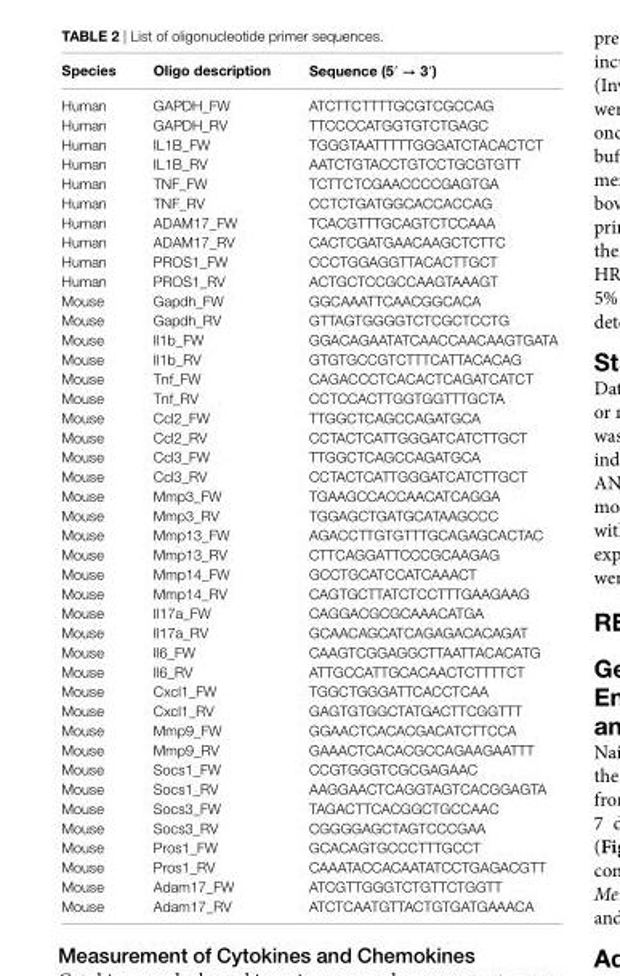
<table><thead><tr><td>species</td><td>Oligo description</td><td>sequence (5′ → 3′)</td></tr></thead><tbody><tr><td>Human</td><td>GAPDH_FW</td><td>ATCTTCTTTTGCGTCGCCAG</td></tr><tr><td>Human</td><td>GAPDH_RV</td><td>TTCCCCATGGTGTCTGAGC</td></tr><tr><td>Human</td><td>IL1B_FW</td><td>TGGGTAATTTTTGGGATCTACACTCT</td></tr><tr><td>Human</td><td>IL1B_RV</td><td>AATCTGTACCTGTCCTGCGTGTT</td></tr><tr><td>Human</td><td>TNF_FW</td><td>TCTTCTCGAACCCCGAGTGA</td></tr><tr><td>Human</td><td>TNF_RV</td><td>CCTCTGATGGCACCACCAG</td></tr><tr><td>Human</td><td>ADAM17_FW</td><td>TCACGTTTGCAGTCTCCAAA</td></tr><tr><td>Human</td><td>ADAM17_RV</td><td>CACTCGATGAACAAGCTCTTC</td></tr><tr><td>Human</td><td>PROS1_FW</td><td>CCCTGGAGGTTACACTTGCT</td></tr><tr><td>Human</td><td>PROS1_RV</td><td>ACTGCTCCGCCAAGTAAAGT</td></tr><tr><td>Mouse</td><td>Gapdh_FW</td><td>GGCAAATTCAACGGCACA</td></tr><tr><td>Mouse</td><td>Gapdh_RV</td><td>GTTAGTGGGGTCTCGCTCCTG</td></tr><tr><td>Mouse</td><td>Il1b_FW</td><td>GGACAGAATATCAACCAACAAGTGATA</td></tr><tr><td>Mouse</td><td>Il1b_RV</td><td>GTGTGCCGTCTTTCATTACACAG</td></tr><tr><td>Mouse</td><td>Tnf_FW</td><td>CAGACCCTCACACTCAGATCATCT</td></tr><tr><td>Mouse</td><td>Tnf_RV</td><td>CCTCCACTTGGTGGTTTGCTA</td></tr><tr><td>Mouse</td><td>Ccl2_FW</td><td>TTGGCTCAGCCAGATGCA</td></tr><tr><td>Mouse</td><td>Ccl2_RV</td><td>CCTACTCATTGGGATCATCTTGCT</td></tr><tr><td>Mouse</td><td>Ccl3_FW</td><td>TTGGCTCAGCCAGATGCA</td></tr><tr><td>Mouse</td><td>Ccl3_RV</td><td>CCTACTCATTGGGATCATCTTGCT</td></tr><tr><td>Mouse</td><td>Mmp3_FW</td><td>TGAAGCCACCAACATCAGGA</td></tr><tr><td>Mouse</td><td>Mmp3_RV</td><td>TGGAGCTGATGCATAAGCCC</td></tr><tr><td>Mouse</td><td>Mmp13_FW</td><td>AGACCTTGTGTTTGCAGAGCACTAC</td></tr><tr><td>Mouse</td><td>Mmp13_RV</td><td>CTTCAGGATTCCCGCAAGAG</td></tr><tr><td>Mouse</td><td>Mmp14_FW</td><td>GCCTGCATCCATCAAACT</td></tr><tr><td>Mouse</td><td>Mmp14_RV</td><td>CAGTGCTTATCTCCTTTGAAGAAG</td></tr><tr><td>Mouse</td><td>Il17a_FW</td><td>CAGGACGCGCAAACATGA</td></tr><tr><td>Mouse</td><td>Il17a_RV</td><td>GCAACAGCATCAGAGACACAGAT</td></tr><tr><td>Mouse</td><td>Il6_FW</td><td>CAAGTCGGAGGCTTAATTACACATG</td></tr><tr><td>Mouse</td><td>Il6_RV</td><td>ATTGCCATTGCACAACTCTTTTCT</td></tr><tr><td>Mouse</td><td>Cxcl1_FW</td><td>TGGCTGGGATTCACCTCAA</td></tr><tr><td>Mouse</td><td>Cxcl1_RV</td><td>GAGTGTGGCTATGACTTCGGTTT</td></tr><tr><td>Mouse</td><td>Mmp9_FW</td><td>GGAACTCACACGACATCTTCCA</td></tr><tr><td>Mouse</td><td>Mmp9_RV</td><td>GAAACTCACACGCCAGAAGAATTT</td></tr><tr><td>Mouse</td><td>Socs1_FW</td><td>CCGTGGGTCGCGAGAAC</td></tr><tr><td>Mouse</td><td>Socs1_RV</td><td>AAGGAACTCAGGTAGTCACGGAGTA</td></tr><tr><td>Mouse</td><td>Socs3_FW</td><td>TAGACTTCACGGCTGCCAAC</td></tr><tr><td>Mouse</td><td>Socs3_RV</td><td>CGGGGAGCTAGTCCCGAA</td></tr><tr><td>Mouse</td><td>Pros1_FW</td><td>GCACAGTGCCCTTTGCCT</td></tr><tr><td>Mouse</td><td>Pros1_RV</td><td>CAAATACCACAATATCCTGAGACGTT</td></tr><tr><td>Mouse</td><td>Adam17_FW</td><td>ATCGTTGGGTCTGTTCTGGTT</td></tr><tr><td>Mouse</td><td>Adam17_RV</td><td>ATCTCAATGTTACTGTGATGAAACA</td></tr></tbody></table>